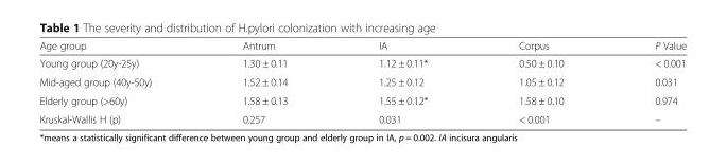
<table><thead><tr><td>Age group</td><td>Antrum</td><td>IA</td><td>Corpus</td><td>P Value</td></tr></thead><tbody><tr><td>Young group (20y-25y)</td><td>1.30 ± 0.11</td><td>1.12 ± 0.11*</td><td>0.50 ± 0.10</td><td>&lt; 0.001</td></tr><tr><td>Mid-aged group (40y-50y)</td><td>1.52 ± 0.14</td><td>1.25 ± 0.12</td><td>1.05 ± 0.12</td><td>0.031</td></tr><tr><td>Elderly group (&gt;60y)</td><td>1.58 ± 0.13</td><td>1.55 ± 0.12*</td><td>1.58 ± 0.10</td><td>0.974</td></tr><tr><td>Kruskal-Wallis H (p)</td><td>0.257</td><td>0.031</td><td>&lt; 0.001</td><td>–</td></tr></tbody></table>